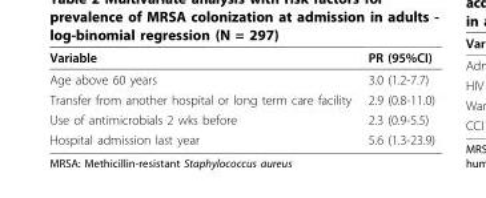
<table><thead><tr><td>Variable</td><td>PR (95%CI)</td></tr></thead><tbody><tr><td>Age above 60 years</td><td>3.0 (1.2-7.7)</td></tr><tr><td>Transfer from another hospital or long term care facility</td><td>2.9 (0.8-11.0)</td></tr><tr><td>Use of antimicrobials 2 wks before</td><td>2.3 (0.9-5.5)</td></tr><tr><td>Hospital admission last year</td><td>5.6 (1.3-23.9)</td></tr></tbody></table>